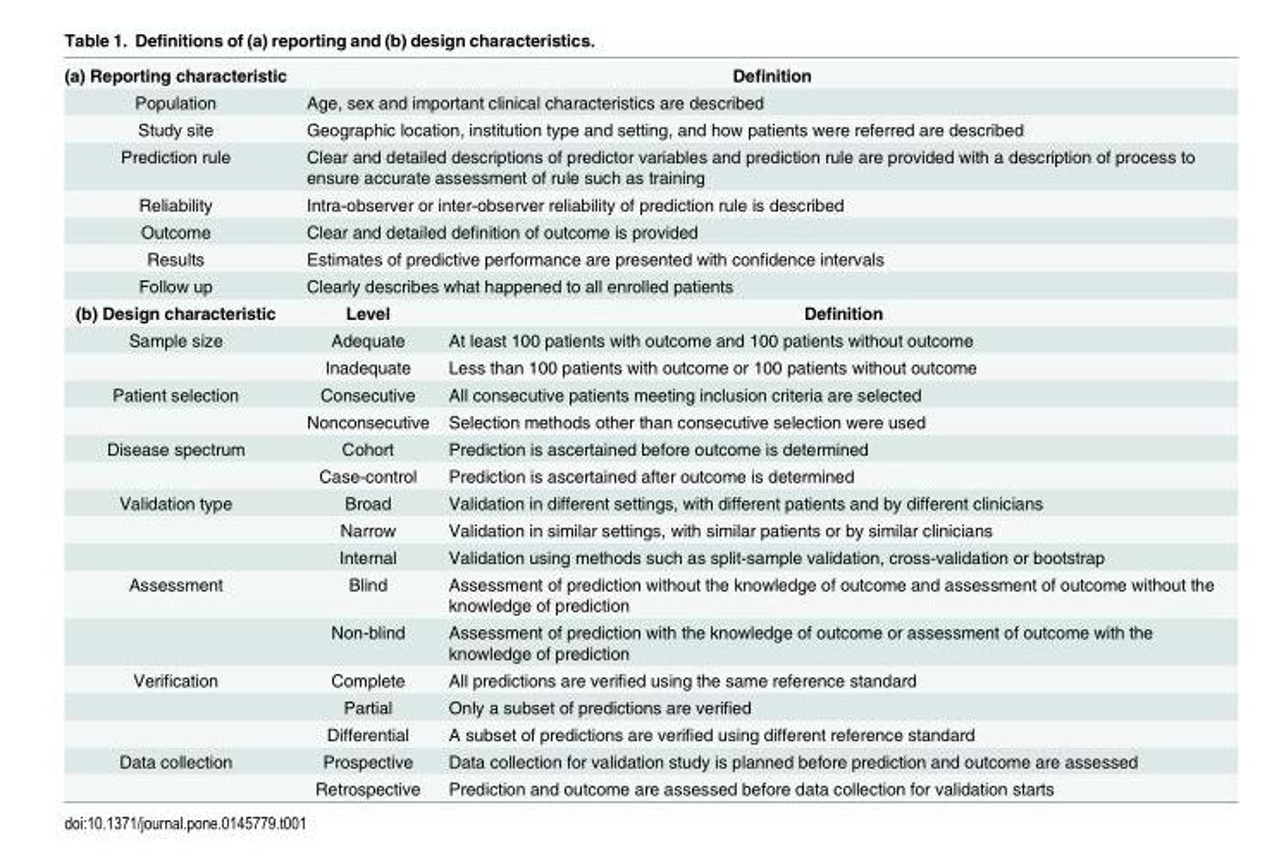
<table><tbody><tr><td>(a) Reporting characteristic</td><td colspan="2">Definition</td></tr><tr><td>Population</td><td colspan="2">Age, sex and important clinical characteristics are described</td></tr><tr><td>Study site</td><td colspan="2">Geographic location, institution type and setting, and how patients were referred are described</td></tr><tr><td>Prediction rule</td><td colspan="2">Clear and detailed descriptions of predictor variables and prediction rule are provided with a description of process to ensure accurate assessment of rule such as training</td></tr><tr><td>Reliability</td><td colspan="2">Intra-observer or inter-observer reliability of prediction rule is described</td></tr><tr><td>Outcome</td><td colspan="2">Clear and detailed definition of outcome is provided</td></tr><tr><td>Results</td><td colspan="2">Estimates of predictive performance are presented with confidence intervals</td></tr><tr><td>Follow up</td><td colspan="2">Clearly describes what happened to all enrolled patients</td></tr><tr><td>(b) Design characteristic</td><td>Level</td><td>Definition</td></tr><tr><td rowspan="2">Sample size</td><td>Adequate</td><td>At least 100 patients with outcome and 100 patients without outcome</td></tr><tr><td>Inadequate</td><td>Less than 100 patients with outcome or 100 patients without outcome</td></tr><tr><td rowspan="2">Patient selection</td><td>Consecutive</td><td>All consecutive patients meeting inclusion criteria are selected</td></tr><tr><td>Nonconsecutive</td><td>Selection methods other than consecutive selection were used</td></tr><tr><td rowspan="2">Disease spectrum</td><td>Cohort</td><td>Prediction is ascertained before outcome is determined</td></tr><tr><td>Case-control</td><td>Prediction is ascertained after outcome is determined</td></tr><tr><td rowspan="3">Validation type</td><td>Broad</td><td>Validation in different settings, with different patients and by different clinicians</td></tr><tr><td>Narrow</td><td>Validation in similar settings, with similar patients or by similar clinicians</td></tr><tr><td>Internal</td><td>Validation using methods such as split-sample validation, cross-validation or bootstrap</td></tr><tr><td rowspan="2">Assessment</td><td>Blind</td><td>Assessment of prediction without the knowledge of outcome and assessment of outcome without the knowledge of prediction</td></tr><tr><td>Non-blind</td><td>Assessment of prediction with the knowledge of outcome or assessment of outcome with the knowledge of prediction</td></tr><tr><td rowspan="3">Verification</td><td>Complete</td><td>All predictions are verified using the same reference standard</td></tr><tr><td>Partial</td><td>Only a subset of predictions are verified</td></tr><tr><td>Differential</td><td>A subset of predictions are verified using different reference standard</td></tr><tr><td rowspan="2">Data collection</td><td>Prospective</td><td>Data collection for validation study is planned before prediction and outcome are assessed</td></tr><tr><td>Retrospective</td><td>Prediction and outcome are assessed before data collection for validation starts</td></tr></tbody></table>